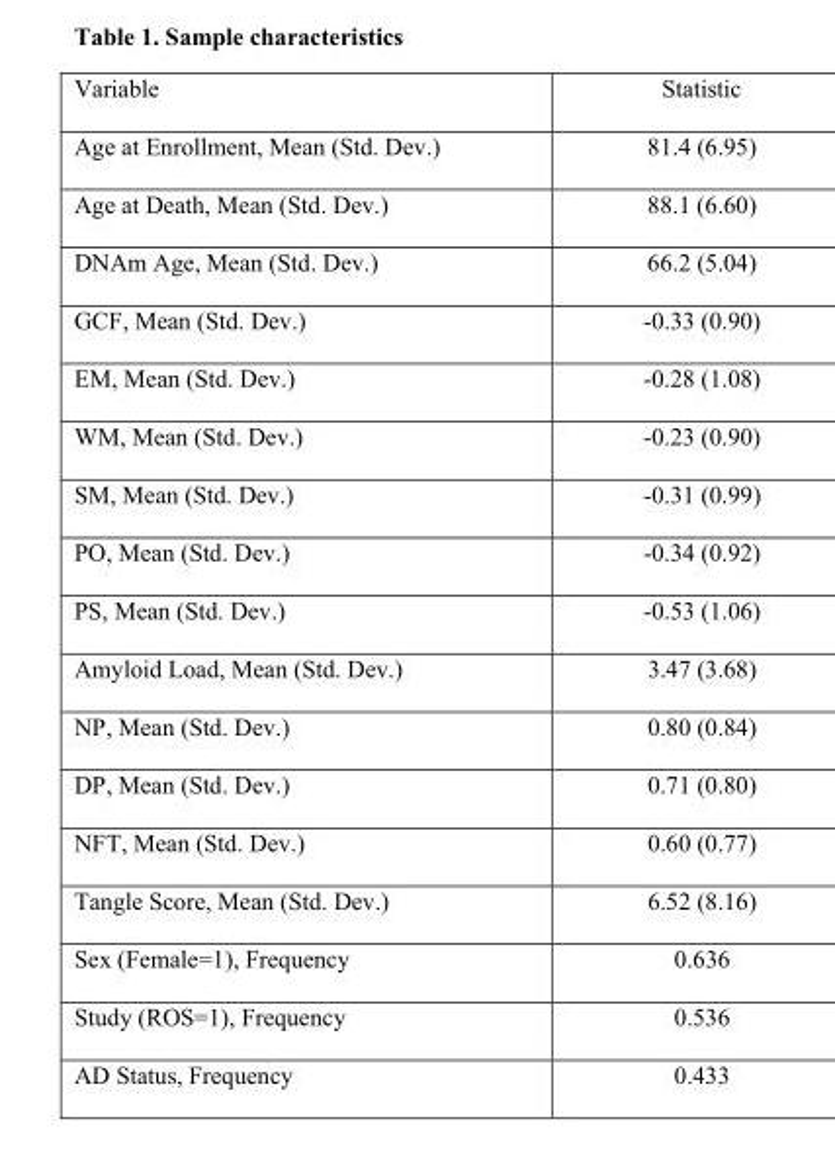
<table><thead><tr><td>Variable</td><td>Statistic</td></tr></thead><tbody><tr><td>Age at Enrollment, Mean (Std. Dev.)</td><td>81.4 (6.95)</td></tr><tr><td>Age at Death, Mean (Std. Dev.)</td><td>88.1 (6.60)</td></tr><tr><td>DNAm Age, Mean (Std. Dev.)</td><td>66.2 (5.04)</td></tr><tr><td>GCF, Mean (Std. Dev.)</td><td>-0.33 (0.90)</td></tr><tr><td>EM, Mean (Std. Dev.)</td><td>-0.28 (1.08)</td></tr><tr><td>WM, Mean (Std. Dev.)</td><td>-0.23 (0.90)</td></tr><tr><td>SM, Mean (Std. Dev.)</td><td>-0.31 (0.99)</td></tr><tr><td>PO, Mean (Std. Dev.)</td><td>-0.34 (0.92)</td></tr><tr><td>PS, Mean (Std. Dev.)</td><td>-0.53 (1.06)</td></tr><tr><td>Amyloid Load, Mean (Std. Dev.)</td><td>3.47 (3.68)</td></tr><tr><td>NP, Mean (Std. Dev.)</td><td>0.80 (0.84)</td></tr><tr><td>DP, Mean (Std. Dev.)</td><td>0.71 (0.80)</td></tr><tr><td>NFT, Mean (Std. Dev.)</td><td>0.60 (0.77)</td></tr><tr><td>Tangle Score, Mean (Std. Dev.)</td><td>6.52 (8.16)</td></tr><tr><td>Sex (Female=1), Frequency</td><td>0.636</td></tr><tr><td>Study (ROS=1), Frequency</td><td>0.536</td></tr><tr><td>AD Status, Frequency</td><td>0.433</td></tr></tbody></table>